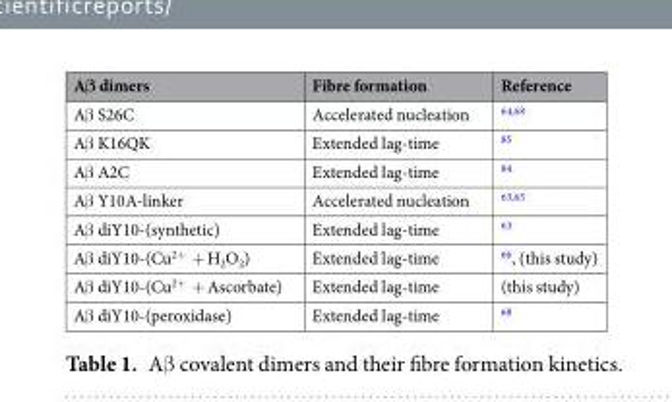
<table><thead><tr><td>Aβ dimers</td><td>Fibre formation</td><td>Reference</td></tr></thead><tbody><tr><td>Aβ S26C</td><td>Accelerated nucleation</td><td><sup>64,68</sup></td></tr><tr><td>Aβ K16QK</td><td>Extended lag-time</td><td><sup>85</sup></td></tr><tr><td>Aβ A2C</td><td>Extended lag-time</td><td><sup>84</sup></td></tr><tr><td>Aβ Y10A-linker</td><td>Accelerated nucleation</td><td><sup>63,65</sup></td></tr><tr><td>Aβ diY10-(synthetic)</td><td>Extended lag-time</td><td><sup>63</sup></td></tr><tr><td>Aβ diY10-(Cu<sup>2+</sup> + H<sub>2</sub>O<sub>2</sub>)</td><td>Extended lag-time</td><td><sup>66</sup>, (this study)</td></tr><tr><td>Aβ diY10-(Cu<sup>2+</sup> + Ascorbate)</td><td>Extended lag-time</td><td>(this study)</td></tr><tr><td>Aβ diY10-(peroxidase)</td><td>Extended lag-time</td><td><sup>68</sup></td></tr></tbody></table>